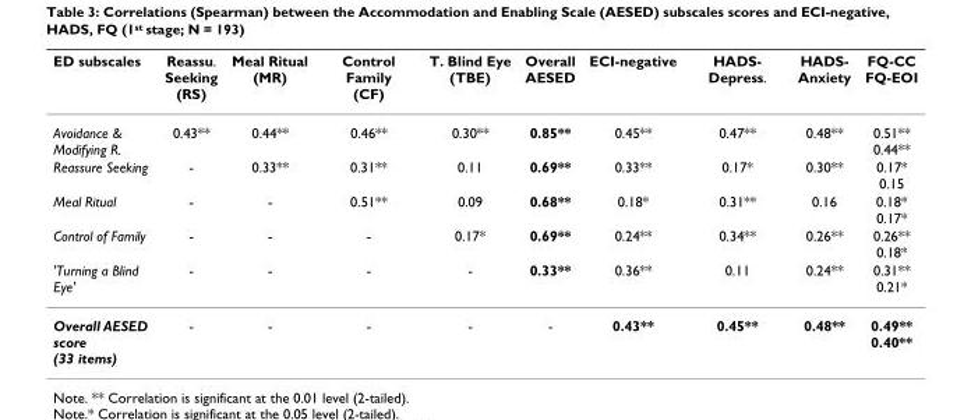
<table><thead><tr><td>ED subscales</td><td>Reassu. Seeking (RS)</td><td>Meal Ritual (MR)</td><td>Control Family (CF)</td><td>T. Blind Eye (TBE)</td><td>Overall AESED</td><td>ECI-negative</td><td>HADS- Depress.</td><td>HADS- Anxiety</td><td>FQ-CC FQ-EOI</td></tr></thead><tbody><tr><td>Avoidance &amp; Modifying R.</td><td>0.43**</td><td>0.44**</td><td>0.46**</td><td>0.30**</td><td>0.85**</td><td>0.45**</td><td>0.47**</td><td>0.48**</td><td>0.51** 0.44**</td></tr><tr><td>Reassure Seeking</td><td>-</td><td>0.33**</td><td>0.31**</td><td>0.11</td><td>0.69**</td><td>0.33**</td><td>0.17*</td><td>0.30**</td><td>0.17* 0.15</td></tr><tr><td>Meal Ritual</td><td>-</td><td>-</td><td>0.51**</td><td>0.09</td><td>0.68**</td><td>0.18*</td><td>0.31**</td><td>0.16</td><td>0.18* 0.17*</td></tr><tr><td>Control of Family</td><td>-</td><td>-</td><td>-</td><td>0.17*</td><td>0.69**</td><td>0.24**</td><td>0.34**</td><td>0.26**</td><td>0.26** 0.18*</td></tr><tr><td>&#x27;Turning a Blind Eye&#x27;</td><td>-</td><td>-</td><td>-</td><td>-</td><td>0.33**</td><td>0.36**</td><td>0.11</td><td>0.24**</td><td>0.31** 0.21*</td></tr><tr><td>Overall AESED score (33 items)</td><td>-</td><td>-</td><td>-</td><td>-</td><td>-</td><td>0.43**</td><td>0.45**</td><td>0.48**</td><td>0.49** 0.40**</td></tr></tbody></table>